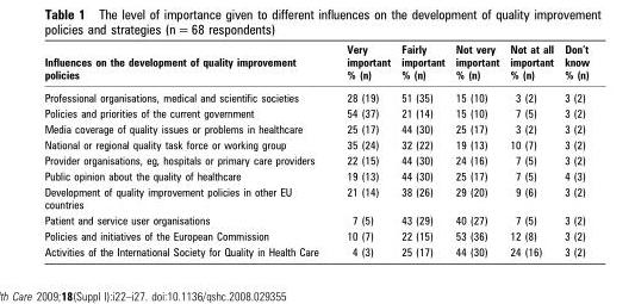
<table><thead><tr><td>Influences on the development of quality improvement policies</td><td>Very important % (n)</td><td>Fairly important % (n)</td><td>Not very important % (n)</td><td>Not at all important % (n)</td><td>Don’t know % (n)</td></tr></thead><tbody><tr><td>Professional organisations, medical and scientific societies</td><td>28 (19)</td><td>51 (35)</td><td>15 (10)</td><td>3 (2)</td><td>3 (2)</td></tr><tr><td>Policies and priorities of the current government</td><td>54 (37)</td><td>21 (14)</td><td>15 (10)</td><td>7 (5)</td><td>3 (2)</td></tr><tr><td>Media coverage of quality issues or problems in healthcare</td><td>25 (17)</td><td>44 (30)</td><td>25 (17)</td><td>3 (2)</td><td>3 (2)</td></tr><tr><td>National or regional quality task force or working group</td><td>35 (24)</td><td>32 (22)</td><td>19 (13)</td><td>10 (7)</td><td>3 (2)</td></tr><tr><td>Provider organisations, eg, hospitals or primary care providers</td><td>22 (15)</td><td>44 (30)</td><td>24 (16)</td><td>7 (5)</td><td>3 (2)</td></tr><tr><td>Public opinion about the quality of healthcare</td><td>19 (13)</td><td>44 (30)</td><td>25 (17)</td><td>7 (5)</td><td>4 (3)</td></tr><tr><td>Development of quality improvement policies in other EU countries</td><td>21 (14)</td><td>38 (26)</td><td>29 (20)</td><td>9 (6)</td><td>3 (2)</td></tr><tr><td>Patient and service user organisations</td><td>7 (5)</td><td>43 (29)</td><td>40 (27)</td><td>7 (5)</td><td>3 (2)</td></tr><tr><td>Policies and initiatives of the European Commission</td><td>10 (7)</td><td>22 (15)</td><td>53 (36)</td><td>12 (8)</td><td>3 (2)</td></tr><tr><td>Activities of the International Society for Quality in Health Care</td><td>4 (3)</td><td>25 (17)</td><td>44 (30)</td><td>24 (16)</td><td>3 (2)</td></tr></tbody></table>